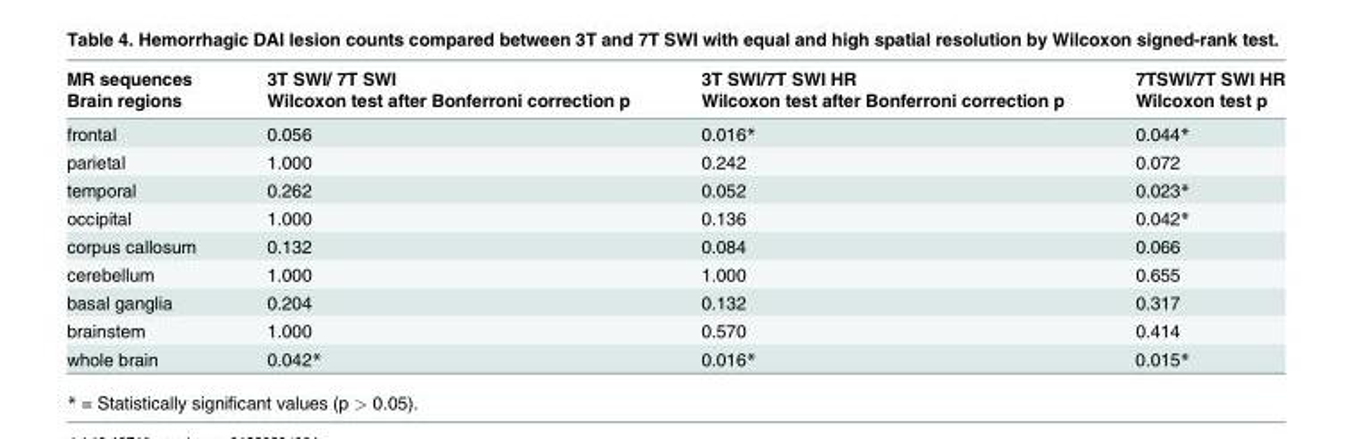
<table><thead><tr><td rowspan="2">MR sequences Brain regions</td><td rowspan="2">3T SWI/ 7T SWI Wilcoxon test after Bonferroni correction p</td><td rowspan="2">3T SWI/7T SWI HR Wilcoxon test after Bonferroni correction p</td><td rowspan="2">7TSWI/7T SWI HR Wilcoxon test p</td></tr><tr></tr></thead><tbody><tr><td>frontal</td><td>0.056</td><td>0.016*</td><td>0.044*</td></tr><tr><td>parietal</td><td>1.000</td><td>0.242</td><td>0.072</td></tr><tr><td>temporal</td><td>0.262</td><td>0.052</td><td>0.023*</td></tr><tr><td>occipital</td><td>1.000</td><td>0.136</td><td>0.042*</td></tr><tr><td>corpus callosum</td><td>0.132</td><td>0.084</td><td>0.066</td></tr><tr><td>cerebellum</td><td>1.000</td><td>1.000</td><td>0.655</td></tr><tr><td>basal ganglia</td><td>0.204</td><td>0.132</td><td>0.317</td></tr><tr><td>brainstem</td><td>1.000</td><td>0.570</td><td>0.414</td></tr><tr><td>whole brain</td><td>0.042*</td><td>0.016*</td><td>0.015*</td></tr></tbody></table>